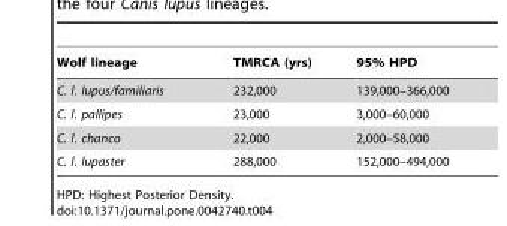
<table><thead><tr><td>Wolf lineage</td><td>TMRCA (yrs)</td><td>95% HPD</td></tr></thead><tbody><tr><td>C. l. lupus/familiaris</td><td>232,000</td><td>139,000–366,000</td></tr><tr><td>C. l. pallipes</td><td>23,000</td><td>3,000–60,000</td></tr><tr><td>C. l. chanco</td><td>22,000</td><td>2,000–58,000</td></tr><tr><td>C. l. lupaster</td><td>288,000</td><td>152,000–494,000</td></tr></tbody></table>